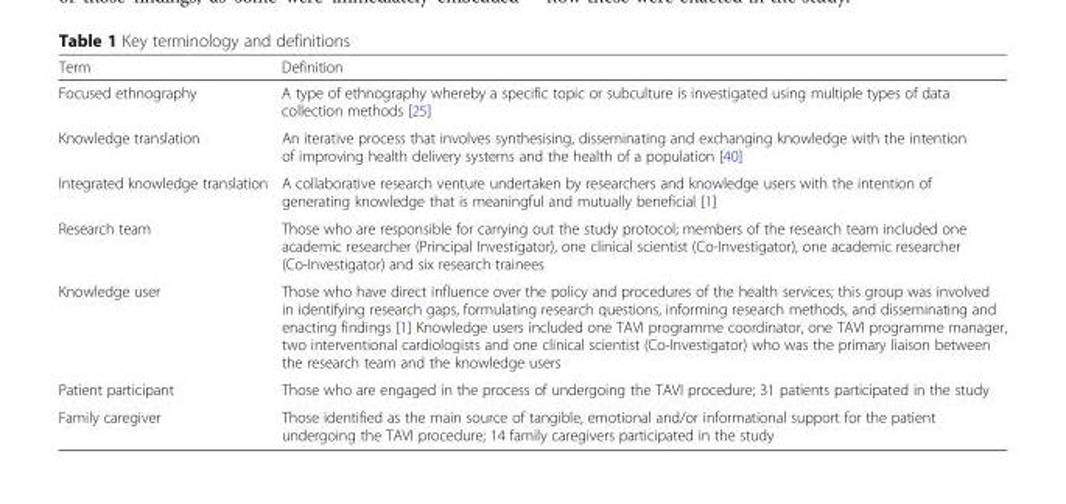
<table><thead><tr><td>Term</td><td>Definition</td></tr></thead><tbody><tr><td>Focused ethnography</td><td>A type of ethnography whereby a specific topic or subculture is investigated using multiple types of data collection methods [25]</td></tr><tr><td>Knowledge translation</td><td>An iterative process that involves synthesising, disseminating and exchanging knowledge with the intention of improving health delivery systems and the health of a population [40]</td></tr><tr><td>Integrated knowledge translation</td><td>A collaborative research venture undertaken by researchers and knowledge users with the intention of generating knowledge that is meaningful and mutually beneficial [1]</td></tr><tr><td>Research team</td><td>Those who are responsible for carrying out the study protocol; members of the research team included one academic researcher (Principal Investigator), one clinical scientist (Co-Investigator), one academic researcher (Co-Investigator) and six research trainees</td></tr><tr><td>Knowledge user</td><td>Those who have direct influence over the policy and procedures of the health services; this group was involved in identifying research gaps, formulating research questions, informing research methods, and disseminating and enacting findings [1] Knowledge users included one TAVI programme coordinator, one TAVI programme manager, two interventional cardiologists and one clinical scientist (Co-Investigator) who was the primary liaison between the research team and the knowledge users</td></tr><tr><td>Patient participant</td><td>Those who are engaged in the process of undergoing the TAVI procedure; 31 patients participated in the study</td></tr><tr><td>Family caregiver</td><td>Those identified as the main source of tangible, emotional and/or informational support for the patient undergoing the TAVI procedure; 14 family caregivers participated in the study</td></tr></tbody></table>